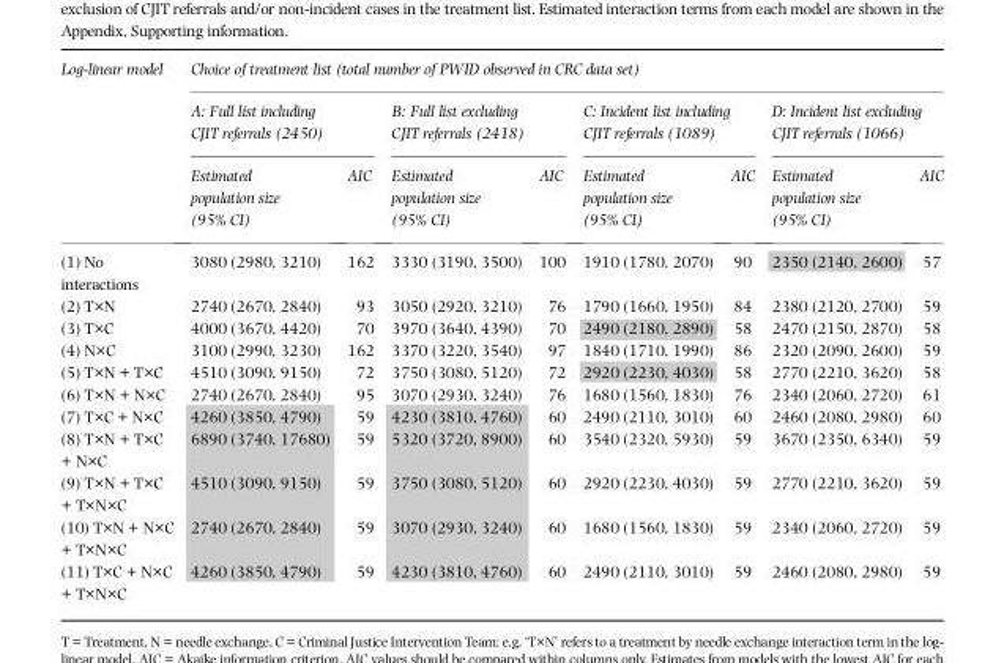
<table><thead><tr><td rowspan="3">Log-linear model</td><td colspan="8">Choice of treatment list (total number of PWID observed in CRC data set)</td></tr><tr><td colspan="2">A: Full list including CJIT referrals (2450)</td><td colspan="2">B: Full list excluding CJIT referrals (2418)</td><td colspan="2">C: Incident list including CJIT referrals (1089)</td><td colspan="2">D: Incident list excluding CJIT referrals (1066)</td></tr><tr><td>Estimated population size (95% CI)</td><td>AIC</td><td>Estimated population size (95% CI)</td><td>AIC</td><td>Estimated population size (95% CI)</td><td>AIC</td><td>Estimated population size (95% CI)</td><td>AIC</td></tr></thead><tbody><tr><td>(1) No interactions</td><td>3080 (2980, 3210)</td><td>162</td><td>3330 (3190, 3500)</td><td>100</td><td>1910 (1780, 2070)</td><td>90</td><td>2350 (2140, 2600)</td><td>57</td></tr><tr><td>(2) T×N</td><td>2740 (2670, 2840)</td><td>93</td><td>3050 (2920, 3210)</td><td>76</td><td>1790 (1660, 1950)</td><td>84</td><td>2380 (2120, 2700)</td><td>59</td></tr><tr><td>(3) T×C</td><td>4000 (3670, 4420)</td><td>70</td><td>3970 (3640, 4390)</td><td>70</td><td>2490 (2180, 2890)</td><td>58</td><td>2470 (2150, 2870)</td><td>58</td></tr><tr><td>(4) N×C</td><td>3100 (2990, 3230)</td><td>162</td><td>3370 (3220, 3540)</td><td>97</td><td>1840 (1710, 1990)</td><td>86</td><td>2320 (2090, 2600)</td><td>59</td></tr><tr><td>(5) T×N + T×C</td><td>4510 (3090, 9150)</td><td>72</td><td>3750 (3080, 5120)</td><td>72</td><td>2920 (2230, 4030)</td><td>58</td><td>2770 (2210, 3620)</td><td>58</td></tr><tr><td>(6) T×N + N×C</td><td>2740 (2670, 2840)</td><td>95</td><td>3070 (2930, 3240)</td><td>76</td><td>1680 (1560, 1830)</td><td>76</td><td>2340 (2060, 2720)</td><td>61</td></tr><tr><td>(7) T×C + N×C</td><td>4260 (3850, 4790)</td><td>59</td><td>4230 (3810, 4760)</td><td>60</td><td>2490 (2110, 3010)</td><td>60</td><td>2460 (2080, 2980)</td><td>60</td></tr><tr><td>(8) T×N + T×C + N×C</td><td>6890 (3740, 17680)</td><td>59</td><td>5320 (3720, 8900)</td><td>60</td><td>3540 (2320, 5930)</td><td>59</td><td>3670 (2350, 6340)</td><td>59</td></tr><tr><td>(9) T×N + T×C + T×N×C</td><td>4510 (3090, 9150)</td><td>59</td><td>3750 (3080, 5120)</td><td>60</td><td>2920 (2230, 4030)</td><td>59</td><td>2770 (2210, 3620)</td><td>59</td></tr><tr><td>(10) T×N + N×C + T×N×C</td><td>2740 (2670, 2840)</td><td>59</td><td>3070 (2930, 3240)</td><td>60</td><td>1680 (1560, 1830)</td><td>59</td><td>2340 (2060, 2720)</td><td>59</td></tr><tr><td>(11) T×C + N×C + T×N×C</td><td>4260 (3850, 4790)</td><td>59</td><td>4230 (3810, 4760)</td><td>60</td><td>2490 (2110, 3010)</td><td>59</td><td>2460 (2080, 2980)</td><td>59</td></tr></tbody></table>